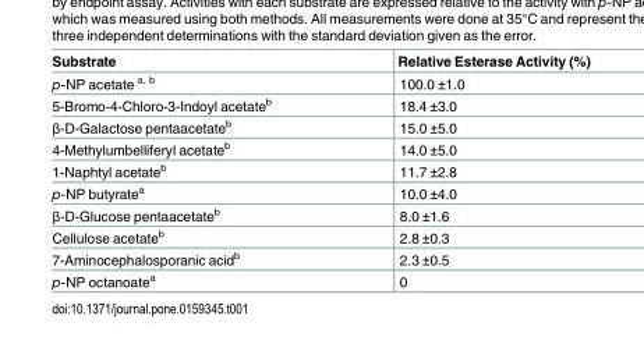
<table><thead><tr><td>Substrate</td><td>Relative Esterase Activity (%)</td></tr></thead><tbody><tr><td>p-NP acetate <sup>a, b</sup></td><td>100.0 ±1.0</td></tr><tr><td>5-Bromo-4-Chloro-3-Indoyl acetate<sup>b</sup></td><td>18.4 ±3.0</td></tr><tr><td>β-D-Galactose pentaacetate<sup>b</sup></td><td>15.0 ±5.0</td></tr><tr><td>4-Methylumbelliferyl acetate<sup>b</sup></td><td>14.0 ±5.0</td></tr><tr><td>1-Naphtyl acetate<sup>b</sup></td><td>11.7 ±2.8</td></tr><tr><td>p-NP butyrate<sup>a</sup></td><td>10.0 ±4.0</td></tr><tr><td>β-D-Glucose pentaacetate<sup>b</sup></td><td>8.0 ±1.6</td></tr><tr><td>Cellulose acetate<sup>b</sup></td><td>2.8 ±0.3</td></tr><tr><td>7-Aminocephalosporanic acid<sup>b</sup></td><td>2.3 ±0.5</td></tr><tr><td>p-NP octanoate<sup>a</sup></td><td>0</td></tr></tbody></table>